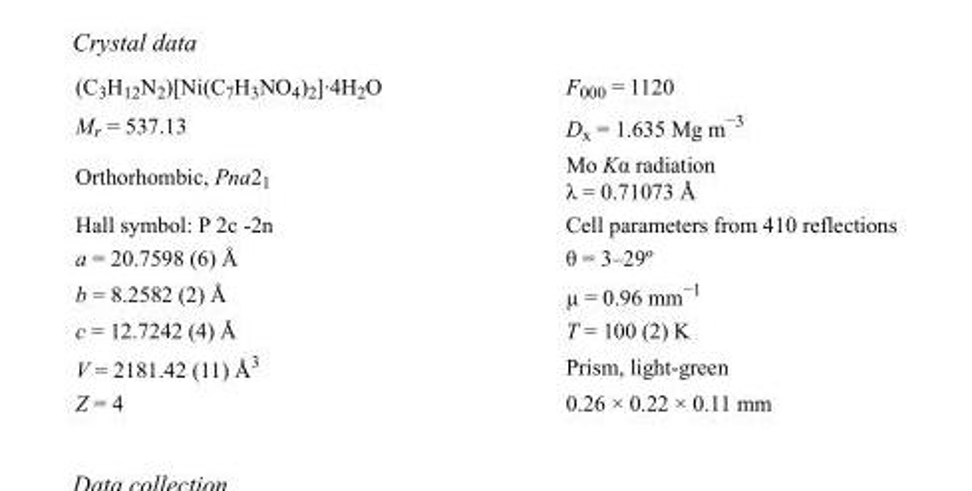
<table><tbody><tr><td>(C<sub>3</sub>H<sub>12</sub>N<sub>2</sub>)[Ni(C<sub>7</sub>H<sub>3</sub>NO<sub>4</sub>)<sub>2</sub>]·4H<sub>2</sub>O</td><td>F<sub>000</sub> = 1120</td></tr><tr><td>M<sub>r</sub> = 537.13</td><td>D<sub>x</sub> = 1.635 Mg m<sup>−3</sup></td></tr><tr><td>Orthorhombic, Pna2<sub>1</sub></td><td>Mo Kα radiation λ = 0.71073 Å</td></tr><tr><td>Hall symbol: P 2c -2n</td><td>Cell parameters from 410 reflections</td></tr><tr><td>a = 20.7598 (6) Å</td><td>θ = 3–29º</td></tr><tr><td>b = 8.2582 (2) Å</td><td>µ = 0.96 mm<sup>−1</sup></td></tr><tr><td>c = 12.7242 (4) Å</td><td>T = 100 (2) K</td></tr><tr><td>V = 2181.42 (11) Å<sup>3</sup></td><td>Prism, light-green</td></tr><tr><td>Z = 4</td><td>0.26 × 0.22 × 0.11 mm</td></tr></tbody></table>